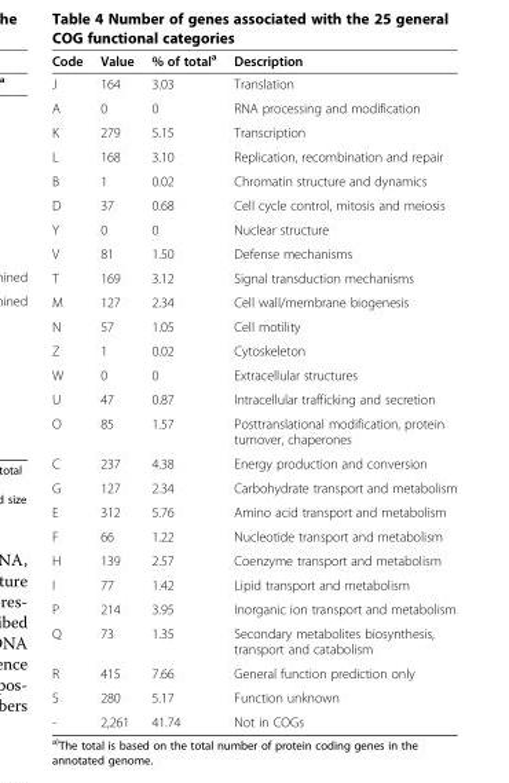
<table><thead><tr><td>Code</td><td>Value</td><td>% of total<sup>a</sup></td><td>Description</td></tr></thead><tbody><tr><td>J</td><td>164</td><td>3.03</td><td>Translation</td></tr><tr><td>A</td><td>0</td><td>0</td><td>RNA processing and modification</td></tr><tr><td>K</td><td>279</td><td>5.15</td><td>Transcription</td></tr><tr><td>L</td><td>168</td><td>3.10</td><td>Replication, recombination and repair</td></tr><tr><td>B</td><td>1</td><td>0.02</td><td>Chromatin structure and dynamics</td></tr><tr><td>D</td><td>37</td><td>0.68</td><td>Cell cycle control, mitosis and meiosis</td></tr><tr><td>Y</td><td>0</td><td>0</td><td>Nuclear structure</td></tr><tr><td>V</td><td>81</td><td>1.50</td><td>Defense mechanisms</td></tr><tr><td>T</td><td>169</td><td>3.12</td><td>Signal transduction mechanisms</td></tr><tr><td>M</td><td>127</td><td>2.34</td><td>Cell wall/membrane biogenesis</td></tr><tr><td>N</td><td>57</td><td>1.05</td><td>Cell motility</td></tr><tr><td>Z</td><td>1</td><td>0.02</td><td>Cytoskeleton</td></tr><tr><td>W</td><td>0</td><td>0</td><td>Extracellular structures</td></tr><tr><td>U</td><td>47</td><td>0.87</td><td>Intracellular trafficking and secretion</td></tr><tr><td>O</td><td>85</td><td>1.57</td><td>Posttranslational modification, protein turnover, chaperones</td></tr><tr><td>C</td><td>237</td><td>4.38</td><td>Energy production and conversion</td></tr><tr><td>G</td><td>127</td><td>2.34</td><td>Carbohydrate transport and metabolism</td></tr><tr><td>E</td><td>312</td><td>5.76</td><td>Amino acid transport and metabolism</td></tr><tr><td>F</td><td>66</td><td>1.22</td><td>Nucleotide transport and metabolism</td></tr><tr><td>H</td><td>139</td><td>2.57</td><td>Coenzyme transport and metabolism</td></tr><tr><td>I</td><td>77</td><td>1.42</td><td>Lipid transport and metabolism</td></tr><tr><td>P</td><td>214</td><td>3.95</td><td>Inorganic ion transport and metabolism</td></tr><tr><td>Q</td><td>73</td><td>1.35</td><td>Secondary metabolites biosynthesis, transport and catabolism</td></tr><tr><td>R</td><td>415</td><td>7.66</td><td>General function prediction only</td></tr><tr><td>S</td><td>280</td><td>5.17</td><td>Function unknown</td></tr><tr><td>-</td><td>2,261</td><td>41.74</td><td>Not in COGs</td></tr></tbody></table>